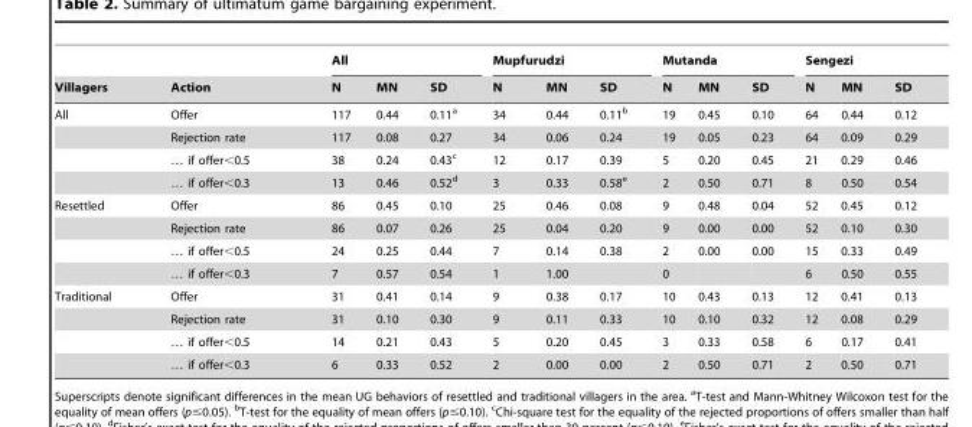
<table><thead><tr><td rowspan="2">Villagers</td><td rowspan="2">Action</td><td colspan="3">All</td><td colspan="3">Mupfurudzi</td><td colspan="3">Mutanda</td><td colspan="3">Sengezi</td></tr><tr><td>N</td><td>MN</td><td>SD</td><td>N</td><td>MN</td><td>SD</td><td>N</td><td>MN</td><td>SD</td><td>N</td><td>MN</td><td>SD</td></tr></thead><tbody><tr><td rowspan="4">All</td><td>Offer</td><td>117</td><td>0.44</td><td>0.11<sup>a</sup></td><td>34</td><td>0.44</td><td>0.11<sup>b</sup></td><td>19</td><td>0.45</td><td>0.10</td><td>64</td><td>0.44</td><td>0.12</td></tr><tr><td>Rejection rate</td><td>117</td><td>0.08</td><td>0.27</td><td>34</td><td>0.06</td><td>0.24</td><td>19</td><td>0.05</td><td>0.23</td><td>64</td><td>0.09</td><td>0.29</td></tr><tr><td>… if offer&lt;0.5</td><td>38</td><td>0.24</td><td>0.43<sup>c</sup></td><td>12</td><td>0.17</td><td>0.39</td><td>5</td><td>0.20</td><td>0.45</td><td>21</td><td>0.29</td><td>0.46</td></tr><tr><td>… if offer&lt;0.3</td><td>13</td><td>0.46</td><td>0.52<sup>d</sup></td><td>3</td><td>0.33</td><td>0.58<sup>e</sup></td><td>2</td><td>0.50</td><td>0.71</td><td>8</td><td>0.50</td><td>0.54</td></tr><tr><td rowspan="4">Resettled</td><td>Offer</td><td>86</td><td>0.45</td><td>0.10</td><td>25</td><td>0.46</td><td>0.08</td><td>9</td><td>0.48</td><td>0.04</td><td>52</td><td>0.45</td><td>0.12</td></tr><tr><td>Rejection rate</td><td>86</td><td>0.07</td><td>0.26</td><td>25</td><td>0.04</td><td>0.20</td><td>9</td><td>0.00</td><td>0.00</td><td>52</td><td>0.10</td><td>0.30</td></tr><tr><td>… if offer&lt;0.5</td><td>24</td><td>0.25</td><td>0.44</td><td>7</td><td>0.14</td><td>0.38</td><td>2</td><td>0.00</td><td>0.00</td><td>15</td><td>0.33</td><td>0.49</td></tr><tr><td>… if offer&lt;0.3</td><td>7</td><td>0.57</td><td>0.54</td><td>1</td><td>1.00</td><td></td><td>0</td><td></td><td></td><td>6</td><td>0.50</td><td>0.55</td></tr><tr><td rowspan="4">Traditional</td><td>Offer</td><td>31</td><td>0.41</td><td>0.14</td><td>9</td><td>0.38</td><td>0.17</td><td>10</td><td>0.43</td><td>0.13</td><td>12</td><td>0.41</td><td>0.13</td></tr><tr><td>Rejection rate</td><td>31</td><td>0.10</td><td>0.30</td><td>9</td><td>0.11</td><td>0.33</td><td>10</td><td>0.10</td><td>0.32</td><td>12</td><td>0.08</td><td>0.29</td></tr><tr><td>… if offer&lt;0.5</td><td>14</td><td>0.21</td><td>0.43</td><td>5</td><td>0.20</td><td>0.45</td><td>3</td><td>0.33</td><td>0.58</td><td>6</td><td>0.17</td><td>0.41</td></tr><tr><td>… if offer&lt;0.3</td><td>6</td><td>0.33</td><td>0.52</td><td>2</td><td>0.00</td><td>0.00</td><td>2</td><td>0.50</td><td>0.71</td><td>2</td><td>0.50</td><td>0.71</td></tr></tbody></table>